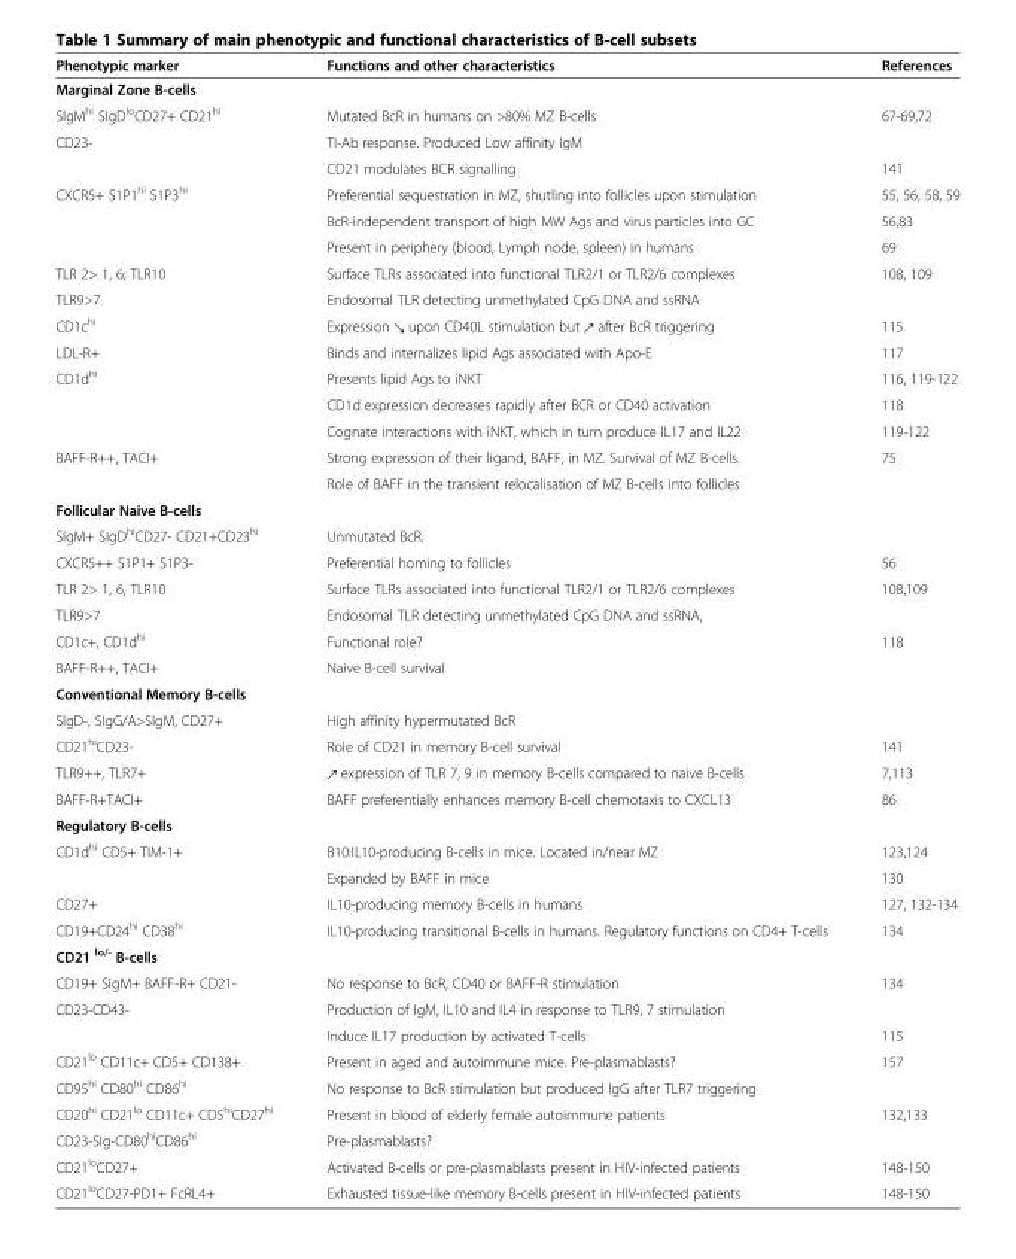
<table><thead><tr><td>Phenotypic marker</td><td>Functions and other characteristics</td><td>References</td></tr></thead><tbody><tr><td colspan="3">Marginal Zone B-cells</td></tr><tr><td>SIgM<sup>hi</sup> SIgD<sup>lo</sup>CD27+ CD21<sup>hi</sup></td><td>Mutated BcR in humans on &gt;80% MZ B-cells</td><td>67-69,72</td></tr><tr><td rowspan="2">CD23-</td><td>TI-Ab response. Produced Low affinity IgM</td><td></td></tr><tr><td>CD21 modulates BCR signalling</td><td>141</td></tr><tr><td rowspan="3">CXCR5+ S1P1<sup>hi</sup> S1P3<sup>hi</sup></td><td>Preferential sequestration in MZ, shutling into follicles upon stimulation</td><td>55, 56, 58, 59</td></tr><tr><td>BcR-independent transport of high MW Ags and virus particles into GC</td><td>56,83</td></tr><tr><td>Present in periphery (blood, Lymph node, spleen) in humans</td><td>69</td></tr><tr><td>TLR 2&gt; 1, 6; TLR10</td><td>Surface TLRs associated into functional TLR2/1 or TLR2/6 complexes</td><td>108, 109</td></tr><tr><td>TLR9&gt;7</td><td>Endosomal TLR detecting unmethylated CpG DNA and ssRNA</td><td></td></tr><tr><td>CD1c<sup>hi</sup></td><td>Expression ↘ upon CD40L stimulation but ↗ after BcR triggering</td><td>115</td></tr><tr><td>LDL-R+</td><td>Binds and internalizes lipid Ags associated with Apo-E</td><td>117</td></tr><tr><td rowspan="3">CD1d<sup>hi</sup></td><td>Presents lipid Ags to iNKT</td><td>116, 119-122</td></tr><tr><td>CD1d expression decreases rapidly after BCR or CD40 activation</td><td>118</td></tr><tr><td>Cognate interactions with iNKT, which in turn produce IL17 and IL22</td><td>119-122</td></tr><tr><td rowspan="2">BAFF-R++, TACI+</td><td>Strong expression of their ligand, BAFF, in MZ. Survival of MZ B-cells.</td><td>75</td></tr><tr><td>Role of BAFF in the transient relocalisation of MZ B-cells into follicles</td><td></td></tr><tr><td colspan="3">Follicular Naive B-cells</td></tr><tr><td>SIgM+ SIgD<sup>hi</sup>CD27- CD21+CD23<sup>hi</sup></td><td>Unmutated BcR.</td><td></td></tr><tr><td>CXCR5++ S1P1+ S1P3-</td><td>Preferential homing to follicles</td><td>56</td></tr><tr><td>TLR 2&gt; 1, 6, TLR10</td><td>Surface TLRs associated into functional TLR2/1 or TLR2/6 complexes</td><td>108,109</td></tr><tr><td>TLR9&gt;7</td><td>Endosomal TLR detecting unmethylated CpG DNA and ssRNA,</td><td></td></tr><tr><td>CD1c+, CD1d<sup>hi</sup></td><td>Functional role?</td><td>118</td></tr><tr><td>BAFF-R++, TACI+</td><td>Naive B-cell survival</td><td></td></tr><tr><td colspan="3">Conventional Memory B-cells</td></tr><tr><td>SIgD-, SIgG/A&gt;SIgM, CD27+</td><td>High affinity hypermutated BcR</td><td></td></tr><tr><td>CD21<sup>hi</sup>CD23-</td><td>Role of CD21 in memory B-cell survival</td><td>141</td></tr><tr><td>TLR9++, TLR7+</td><td>↗ expression of TLR 7, 9 in memory B-cells compared to naive B-cells</td><td>7,113</td></tr><tr><td>BAFF-R+TACI+</td><td>BAFF preferentially enhances memory B-cell chemotaxis to CXCL13</td><td>86</td></tr><tr><td colspan="3">Regulatory B-cells</td></tr><tr><td rowspan="2">CD1d<sup>hi</sup> CD5+ TIM-1+</td><td>B10:IL10-producing B-cells in mice. Located in/near MZ</td><td>123,124</td></tr><tr><td>Expanded by BAFF in mice</td><td>130</td></tr><tr><td>CD27+</td><td>IL10-producing memory B-cells in humans</td><td>127, 132-134</td></tr><tr><td>CD19+CD24<sup>hi</sup> CD38<sup>hi</sup></td><td>IL10-producing transitional B-cells in humans. Regulatory functions on CD4+ T-cells</td><td>134</td></tr><tr><td colspan="3">CD21 <sup>lo/-</sup> B-cells</td></tr><tr><td>CD19+ SIgM+ BAFF-R+ CD21-</td><td>No response to BcR, CD40 or BAFF-R stimulation</td><td>134</td></tr><tr><td rowspan="2">CD23-CD43-</td><td>Production of IgM, IL10 and IL4 in response to TLR9, 7 stimulation</td><td></td></tr><tr><td>Induce IL17 production by activated T-cells</td><td>115</td></tr><tr><td>CD21<sup>lo</sup> CD11c+ CD5+ CD138+</td><td>Present in aged and autoimmune mice. Pre-plasmablasts?</td><td>157</td></tr><tr><td>CD95<sup>hi</sup> CD80<sup>hi</sup> CD86<sup>hi</sup></td><td>No response to BcR stimulation but produced IgG after TLR7 triggering</td><td></td></tr><tr><td>CD20<sup>hi</sup> CD21<sup>lo</sup> CD11c+ CD5<sup>hi</sup>CD27<sup>hi</sup></td><td>Present in blood of elderly female autoimmune patients</td><td>132,133</td></tr><tr><td>CD23-SIg-CD80<sup>hi</sup>CD86<sup>hi</sup></td><td>Pre-plasmablasts?</td><td></td></tr><tr><td>CD21<sup>lo</sup>CD27+</td><td>Activated B-cells or pre-plasmablasts present in HIV-infected patients</td><td>148-150</td></tr><tr><td>CD21<sup>lo</sup>CD27-PD1+ FcRL4+</td><td>Exhausted tissue-like memory B-cells present in HIV-infected patients</td><td>148-150</td></tr></tbody></table>